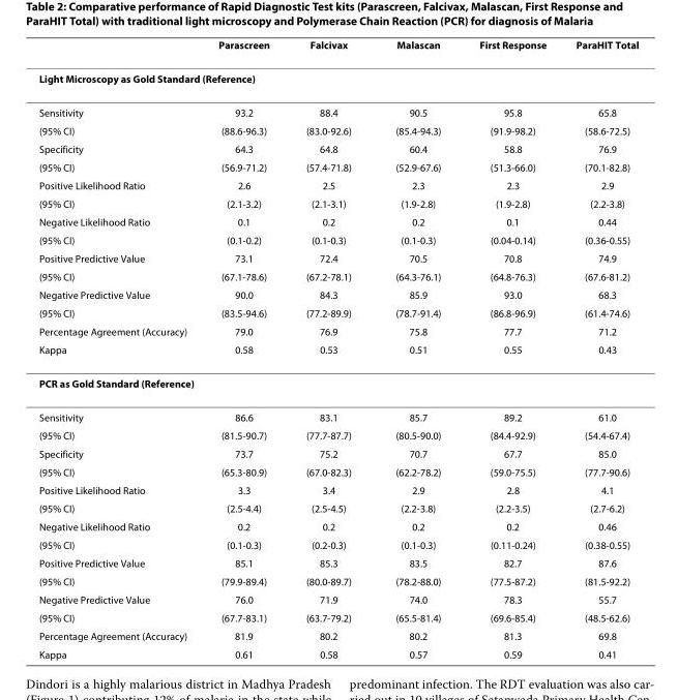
<table><thead><tr><td></td><td>Parascreen</td><td>Falcivax</td><td>Malascan</td><td>First Response</td><td>ParaHIT Total</td></tr></thead><tbody><tr><td colspan="6">Light Microscopy as Gold Standard (Reference)</td></tr><tr><td>Sensitivity</td><td>93.2</td><td>88.4</td><td>90.5</td><td>95.8</td><td>65.8</td></tr><tr><td>(95% CI)</td><td>(88.6-96.3)</td><td>(83.0-92.6)</td><td>(85.4-94.3)</td><td>(91.9-98.2)</td><td>(58.6-72.5)</td></tr><tr><td>Specificity</td><td>64.3</td><td>64.8</td><td>60.4</td><td>58.8</td><td>76.9</td></tr><tr><td>(95% CI)</td><td>(56.9-71.2)</td><td>(57.4-71.8)</td><td>(52.9-67.6)</td><td>(51.3-66.0)</td><td>(70.1-82.8)</td></tr><tr><td>Positive Likelihood Ratio</td><td>2.6</td><td>2.5</td><td>2.3</td><td>2.3</td><td>2.9</td></tr><tr><td>(95% CI)</td><td>(2.1-3.2)</td><td>(2.1-3.1)</td><td>(1.9-2.8)</td><td>(1.9-2.8)</td><td>(2.2-3.8)</td></tr><tr><td>Negative Likelihood Ratio</td><td>0.1</td><td>0.2</td><td>0.2</td><td>0.1</td><td>0.44</td></tr><tr><td>(95% CI)</td><td>(0.1-0.2)</td><td>(0.1-0.3)</td><td>(0.1-0.3)</td><td>(0.04-0.14)</td><td>(0.36-0.55)</td></tr><tr><td>Positive Predictive Value</td><td>73.1</td><td>72.4</td><td>70.5</td><td>70.8</td><td>74.9</td></tr><tr><td>(95% CI)</td><td>(67.1-78.6)</td><td>(67.2-78.1)</td><td>(64.3-76.1)</td><td>(64.8-76.3)</td><td>(67.6-81.2)</td></tr><tr><td>Negative Predictive Value</td><td>90.0</td><td>84.3</td><td>85.9</td><td>93.0</td><td>68.3</td></tr><tr><td>(95% CI)</td><td>(83.5-94.6)</td><td>(77.2-89.9)</td><td>(78.7-91.4)</td><td>(86.8-96.9)</td><td>(61.4-74.6)</td></tr><tr><td>Percentage Agreement (Accuracy)</td><td>79.0</td><td>76.9</td><td>75.8</td><td>77.7</td><td>71.2</td></tr><tr><td>Kappa</td><td>0.58</td><td>0.53</td><td>0.51</td><td>0.55</td><td>0.43</td></tr><tr><td colspan="6">PCR as Gold Standard (Reference)</td></tr><tr><td>Sensitivity</td><td>86.6</td><td>83.1</td><td>85.7</td><td>89.2</td><td>61.0</td></tr><tr><td>(95% CI)</td><td>(81.5-90.7)</td><td>(77.7-87.7)</td><td>(80.5-90.0)</td><td>(84.4-92.9)</td><td>(54.4-67.4)</td></tr><tr><td>Specificity</td><td>73.7</td><td>75.2</td><td>70.7</td><td>67.7</td><td>85.0</td></tr><tr><td>(95% CI)</td><td>(65.3-80.9)</td><td>(67.0-82.3)</td><td>(62.2-78.2)</td><td>(59.0-75.5)</td><td>(77.7-90.6)</td></tr><tr><td>Positive Likelihood Ratio</td><td>3.3</td><td>3.4</td><td>2.9</td><td>2.8</td><td>4.1</td></tr><tr><td>(95% CI)</td><td>(2.5-4.4)</td><td>(2.5-4.5)</td><td>(2.2-3.8)</td><td>(2.2-3.5)</td><td>(2.7-6.2)</td></tr><tr><td>Negative Likelihood Ratio</td><td>0.2</td><td>0.2</td><td>0.2</td><td>0.2</td><td>0.46</td></tr><tr><td>(95% CI)</td><td>(0.1-0.3)</td><td>(0.2-0.3)</td><td>(0.1-0.3)</td><td>(0.11-0.24)</td><td>(0.38-0.55)</td></tr><tr><td>Positive Predictive Value</td><td>85.1</td><td>85.3</td><td>83.5</td><td>82.7</td><td>87.6</td></tr><tr><td>(95% CI)</td><td>(79.9-89.4)</td><td>(80.0-89.7)</td><td>(78.2-88.0)</td><td>(77.5-87.2)</td><td>(81.5-92.2)</td></tr><tr><td>Negative Predictive Value</td><td>76.0</td><td>71.9</td><td>74.0</td><td>78.3</td><td>55.7</td></tr><tr><td>(95% CI)</td><td>(67.7-83.1)</td><td>(63.7-79.2)</td><td>(65.5-81.4)</td><td>(69.6-85.4)</td><td>(48.5-62.6)</td></tr><tr><td>Percentage Agreement (Accuracy)</td><td>81.9</td><td>80.2</td><td>80.2</td><td>81.3</td><td>69.8</td></tr><tr><td>Kappa</td><td>0.61</td><td>0.58</td><td>0.57</td><td>0.59</td><td>0.41</td></tr></tbody></table>